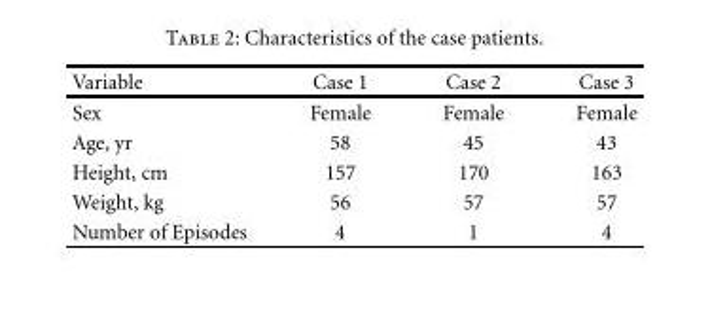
<table><thead><tr><td>Variable</td><td>Case 1</td><td>Case 2</td><td>Case 3</td></tr></thead><tbody><tr><td>Sex</td><td>Female</td><td>Female</td><td>Female</td></tr><tr><td>Age, yr</td><td>58</td><td>45</td><td>43</td></tr><tr><td>Height, cm</td><td>157</td><td>170</td><td>163</td></tr><tr><td>Weight, kg</td><td>56</td><td>57</td><td>57</td></tr><tr><td>Number of Episodes</td><td>4</td><td>1</td><td>4</td></tr></tbody></table>